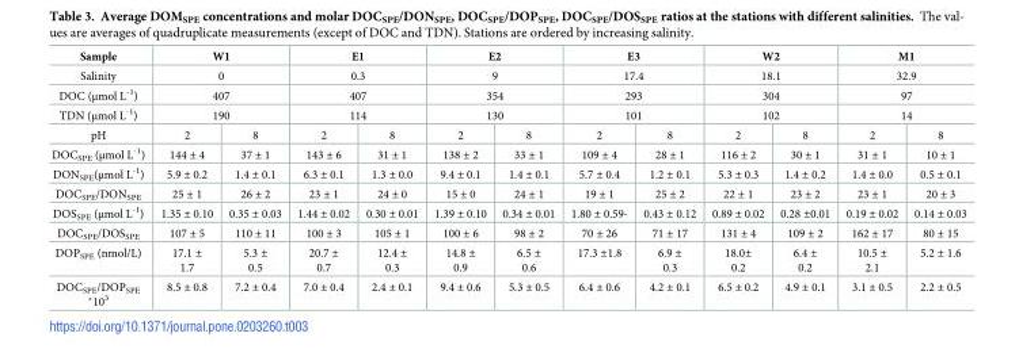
<table><thead><tr><td>Sample</td><td colspan="2">W1</td><td colspan="2">E1</td><td colspan="2">E2</td><td colspan="2">E3</td><td colspan="2">W2</td><td colspan="2">M1</td></tr></thead><tbody><tr><td>Salinity</td><td colspan="2">0</td><td colspan="2">0.3</td><td colspan="2">9</td><td colspan="2">17.4</td><td colspan="2">18.1</td><td colspan="2">32.9</td></tr><tr><td>DOC (μmol L<sup>-1</sup>)</td><td colspan="2">407</td><td colspan="2">407</td><td colspan="2">354</td><td colspan="2">293</td><td colspan="2">304</td><td colspan="2">97</td></tr><tr><td>TDN (μmol L<sup>-1</sup>)</td><td colspan="2">190</td><td colspan="2">114</td><td colspan="2">130</td><td colspan="2">101</td><td colspan="2">102</td><td colspan="2">14</td></tr><tr><td>pH</td><td>2</td><td>8</td><td>2</td><td>8</td><td>2</td><td>8</td><td>2</td><td>8</td><td>2</td><td>8</td><td>2</td><td>8</td></tr><tr><td>DOC<sub>SPE</sub> (μmol L<sup>-1</sup>)</td><td>144 ± 4</td><td>37 ± 1</td><td>143 ± 6</td><td>31 ± 1</td><td>138 ± 2</td><td>33 ± 1</td><td>109 ± 4</td><td>28 ± 1</td><td>116 ± 2</td><td>30 ± 1</td><td>31 ± 1</td><td>10 ± 1</td></tr><tr><td>DON<sub>SPE</sub>(μmol L<sup>-1</sup>)</td><td>5.9 ± 0.2</td><td>1.4 ± 0.1</td><td>6.3 ± 0.1</td><td>1.3 ± 0.0</td><td>9.4 ± 0.1</td><td>1.4 ± 0.1</td><td>5.7 ± 0.4</td><td>1.2 ± 0.1</td><td>5.3 ± 0.3</td><td>1.4 ± 0.2</td><td>1.4 ± 0.0</td><td>0.5 ± 0.1</td></tr><tr><td>DOC<sub>SPE</sub>/DON<sub>SPE</sub></td><td>25 ± 1</td><td>26 ± 2</td><td>23 ± 1</td><td>24 ± 0</td><td>15 ± 0</td><td>24 ± 1</td><td>19 ± 1</td><td>25 ± 2</td><td>22 ± 1</td><td>23 ± 2</td><td>23 ± 1</td><td>20 ± 3</td></tr><tr><td>DOS<sub>SPE</sub> (μmol L<sup>-1</sup>)</td><td>1.35 ± 0.10</td><td>0.35 ± 0.03</td><td>1.44 ± 0.02</td><td>0.30 ± 0.01</td><td>1.39 ± 0.10</td><td>0.34 ± 0.01</td><td>1.80 ± 0.59-</td><td>0.43 ± 0.12</td><td>0.89 ± 0.02</td><td>0.28 ±0.01</td><td>0.19 ± 0.02</td><td>0.14 ± 0.03</td></tr><tr><td>DOC<sub>SPE</sub>/DOS<sub>SPE</sub></td><td>107 ± 5</td><td>110 ± 11</td><td>100 ± 3</td><td>105 ± 1</td><td>100 ± 6</td><td>98 ± 2</td><td>70 ± 26</td><td>71 ± 17</td><td>131 ± 4</td><td>109 ± 2</td><td>162 ± 17</td><td>80 ± 15</td></tr><tr><td>DOP<sub>SPE</sub> (nmol/L)</td><td>17.1 ± 1.7</td><td>5.3 ± 0.5</td><td>20.7 ± 0.7</td><td>12.4 ± 0.3</td><td>14.8 ± 0.9</td><td>6.5 ± 0.6</td><td>17.3 ±1.8</td><td>6.9 ± 0.3</td><td>18.0± 0.2</td><td>6.4 ± 0.2</td><td>10.5 ± 2.1</td><td>5.2 ± 1.6</td></tr><tr><td>DOC<sub>SPE</sub>/DOP<sub>SPE</sub> *10<sup>3</sup></td><td>8.5 ± 0.8</td><td>7.2 ± 0.4</td><td>7.0 ± 0.4</td><td>2.4 ± 0.1</td><td>9.4 ± 0.6</td><td>5.3 ± 0.5</td><td>6.4 ± 0.6</td><td>4.2 ± 0.1</td><td>6.5 ± 0.2</td><td>4.9 ± 0.1</td><td>3.1 ± 0.5</td><td>2.2 ± 0.5</td></tr></tbody></table>